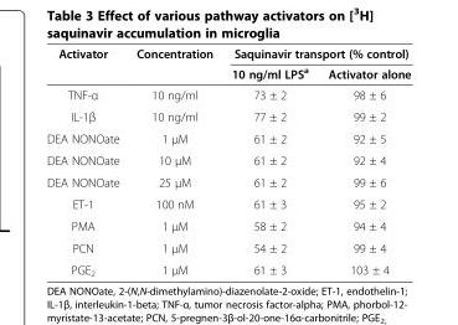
<table><thead><tr><td rowspan="2">Activator</td><td rowspan="2">Concentration</td><td colspan="2">Saquinavir transport (% control)</td></tr><tr><td>10 ng/ml LPS<sup>a</sup></td><td>Activator alone</td></tr></thead><tbody><tr><td>TNF-α</td><td>10 ng/ml</td><td>73 ± 2</td><td>98 ± 6</td></tr><tr><td>IL-1β</td><td>10 ng/ml</td><td>77 ± 2</td><td>99 ± 2</td></tr><tr><td>DEA NONOate</td><td>1 μM</td><td>61 ± 2</td><td>92 ± 5</td></tr><tr><td>DEA NONOate</td><td>10 μM</td><td>61 ± 2</td><td>92 ± 4</td></tr><tr><td>DEA NONOate</td><td>25 μM</td><td>61 ± 2</td><td>99 ± 6</td></tr><tr><td>ET-1</td><td>100 nM</td><td>61 ± 3</td><td>95 ± 2</td></tr><tr><td>PMA</td><td>1 μM</td><td>58 ± 2</td><td>94 ± 4</td></tr><tr><td>PCN</td><td>1 μM</td><td>54 ± 2</td><td>99 ± 4</td></tr><tr><td>PGE<sub>2</sub></td><td>1 μM</td><td>61 ± 3</td><td>103 ± 4</td></tr></tbody></table>